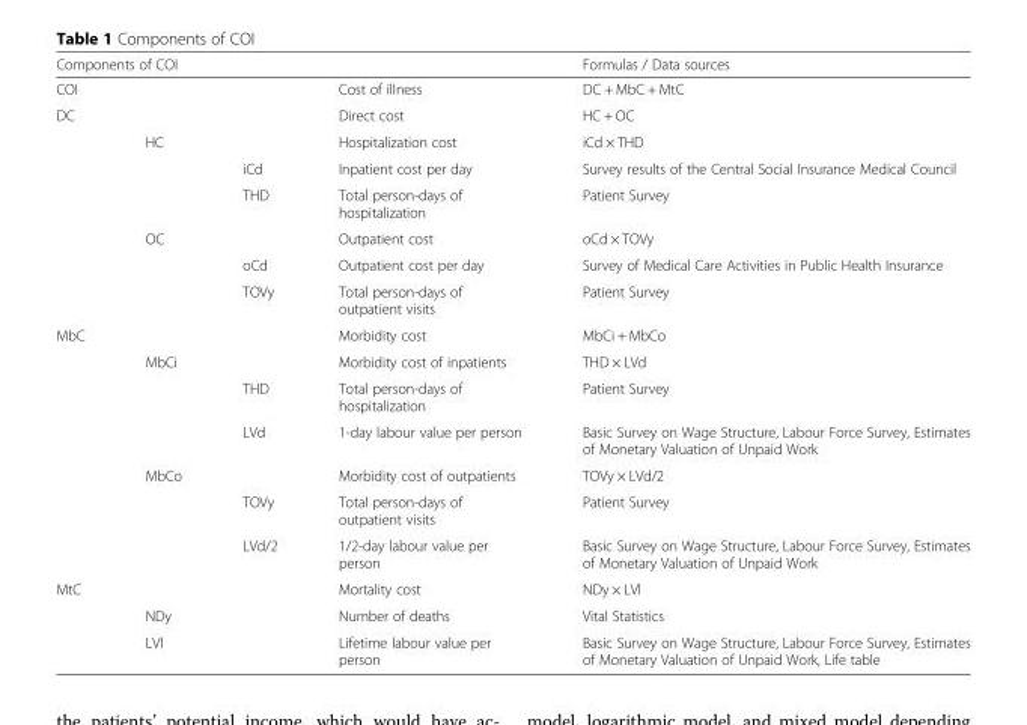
<table><thead><tr><td colspan="4">Components of COI</td><td rowspan="2">Formulas / Data sources DC + MbC + MtC</td></tr><tr><td>COI</td><td></td><td></td><td>Cost of illness</td></tr></thead><tbody><tr><td rowspan="7">DC</td><td></td><td></td><td>Direct cost</td><td>HC + OC</td></tr><tr><td>HC</td><td></td><td>Hospitalization cost</td><td>iCd × THD</td></tr><tr><td></td><td>iCd</td><td>Inpatient cost per day</td><td>Survey results of the Central Social Insurance Medical Council</td></tr><tr><td></td><td>THD</td><td>Total person-days of hospitalization</td><td>Patient Survey</td></tr><tr><td>OC</td><td></td><td>Outpatient cost</td><td>oCd × TOVy</td></tr><tr><td></td><td>oCd</td><td>Outpatient cost per day</td><td>Survey of Medical Care Activities in Public Health Insurance</td></tr><tr><td></td><td>TOVy</td><td>Total person-days of outpatient visits</td><td>Patient Survey</td></tr><tr><td rowspan="7">MbC</td><td></td><td></td><td>Morbidity cost</td><td>MbCi + MbCo</td></tr><tr><td>MbCi</td><td></td><td>Morbidity cost of inpatients</td><td>THD × LVd</td></tr><tr><td></td><td>THD</td><td>Total person-days of hospitalization</td><td>Patient Survey</td></tr><tr><td></td><td>LVd</td><td>1-day labour value per person</td><td>Basic Survey on Wage Structure, Labour Force Survey, Estimates of Monetary Valuation of Unpaid Work</td></tr><tr><td>MbCo</td><td></td><td>Morbidity cost of outpatients</td><td>TOVy × LVd/2</td></tr><tr><td></td><td>TOVy</td><td>Total person-days of outpatient visits</td><td>Patient Survey</td></tr><tr><td></td><td>LVd/2</td><td>1/2-day labour value per person</td><td>Basic Survey on Wage Structure, Labour Force Survey, Estimates of Monetary Valuation of Unpaid Work</td></tr><tr><td rowspan="3">MtC</td><td></td><td></td><td>Mortality cost</td><td>NDy × LVl</td></tr><tr><td>NDy</td><td></td><td>Number of deaths</td><td>Vital Statistics</td></tr><tr><td>LVl</td><td></td><td>Lifetime labour value per person</td><td>Basic Survey on Wage Structure, Labour Force Survey, Estimates of Monetary Valuation of Unpaid Work, Life table</td></tr></tbody></table>